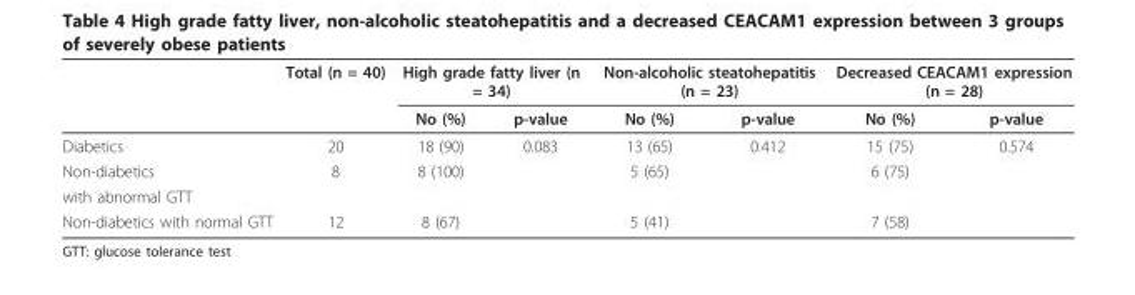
<table><thead><tr><td rowspan="2"></td><td rowspan="2">Total (n = 40)</td><td colspan="2">High grade fatty liver (n = 34)</td><td colspan="2">Non-alcoholic steatohepatitis (n = 23)</td><td colspan="2">Decreased CEACAM1 expression (n = 28)</td></tr><tr><td>No (%)</td><td>p-value</td><td>No (%)</td><td>p-value</td><td>No (%)</td><td>p-value</td></tr></thead><tbody><tr><td>Diabetics</td><td>20</td><td>18 (90)</td><td>0.083</td><td>13 (65)</td><td>0.412</td><td>15 (75)</td><td>0.574</td></tr><tr><td>Non-diabetics</td><td>8</td><td>8 (100)</td><td></td><td>5 (65)</td><td></td><td>6 (75)</td><td></td></tr><tr><td colspan="8">with abnormal GTT</td></tr><tr><td>Non-diabetics with normal GTT</td><td>12</td><td>8 (67)</td><td></td><td>5 (41)</td><td></td><td>7 (58)</td><td></td></tr></tbody></table>